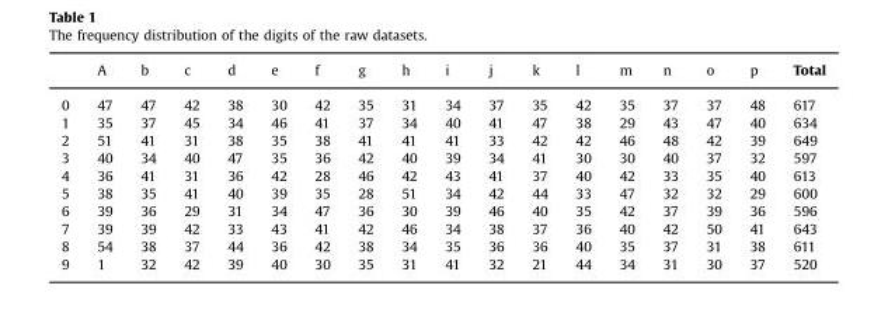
<table><thead><tr><td></td><td>A</td><td>b</td><td>c</td><td>d</td><td>e</td><td>f</td><td>g</td><td>h</td><td>i</td><td>j</td><td>k</td><td>l</td><td>m</td><td>n</td><td>o</td><td>p</td><td>Total</td></tr></thead><tbody><tr><td>0</td><td>47</td><td>47</td><td>42</td><td>38</td><td>30</td><td>42</td><td>35</td><td>31</td><td>34</td><td>37</td><td>35</td><td>42</td><td>35</td><td>37</td><td>37</td><td>48</td><td>617</td></tr><tr><td>1</td><td>35</td><td>37</td><td>45</td><td>34</td><td>46</td><td>41</td><td>37</td><td>34</td><td>40</td><td>41</td><td>47</td><td>38</td><td>29</td><td>43</td><td>47</td><td>40</td><td>634</td></tr><tr><td>2</td><td>51</td><td>41</td><td>31</td><td>38</td><td>35</td><td>38</td><td>41</td><td>41</td><td>41</td><td>33</td><td>42</td><td>42</td><td>46</td><td>48</td><td>42</td><td>39</td><td>649</td></tr><tr><td>3</td><td>40</td><td>34</td><td>40</td><td>47</td><td>35</td><td>36</td><td>42</td><td>40</td><td>39</td><td>34</td><td>41</td><td>30</td><td>30</td><td>40</td><td>37</td><td>32</td><td>597</td></tr><tr><td>4</td><td>36</td><td>41</td><td>31</td><td>36</td><td>42</td><td>28</td><td>46</td><td>42</td><td>43</td><td>41</td><td>37</td><td>40</td><td>42</td><td>33</td><td>35</td><td>40</td><td>613</td></tr><tr><td>5</td><td>38</td><td>35</td><td>41</td><td>40</td><td>39</td><td>35</td><td>28</td><td>51</td><td>34</td><td>42</td><td>44</td><td>33</td><td>47</td><td>32</td><td>32</td><td>29</td><td>600</td></tr><tr><td>6</td><td>39</td><td>36</td><td>29</td><td>31</td><td>34</td><td>47</td><td>36</td><td>30</td><td>39</td><td>46</td><td>40</td><td>35</td><td>42</td><td>37</td><td>39</td><td>36</td><td>596</td></tr><tr><td>7</td><td>39</td><td>39</td><td>42</td><td>33</td><td>43</td><td>41</td><td>42</td><td>46</td><td>34</td><td>38</td><td>37</td><td>36</td><td>40</td><td>42</td><td>50</td><td>41</td><td>643</td></tr><tr><td>8</td><td>54</td><td>38</td><td>37</td><td>44</td><td>36</td><td>42</td><td>38</td><td>34</td><td>35</td><td>36</td><td>36</td><td>40</td><td>35</td><td>37</td><td>31</td><td>38</td><td>611</td></tr><tr><td>9</td><td>1</td><td>32</td><td>42</td><td>39</td><td>40</td><td>30</td><td>35</td><td>31</td><td>41</td><td>32</td><td>21</td><td>44</td><td>34</td><td>31</td><td>30</td><td>37</td><td>520</td></tr></tbody></table>